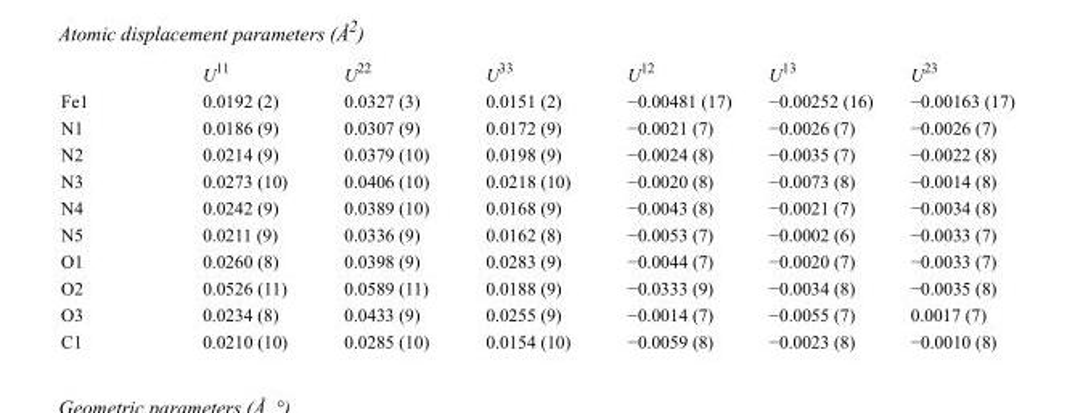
<table><thead><tr><td></td><td>U<sup>11</sup></td><td>U<sup>22</sup></td><td>U<sup>33</sup></td><td>U<sup>12</sup></td><td>U<sup>13</sup></td><td>U<sup>23</sup></td></tr></thead><tbody><tr><td>Fe1</td><td>0.0192 (2)</td><td>0.0327 (3)</td><td>0.0151 (2)</td><td>−0.00481 (17)</td><td>−0.00252 (16)</td><td>−0.00163 (17)</td></tr><tr><td>N1</td><td>0.0186 (9)</td><td>0.0307 (9)</td><td>0.0172 (9)</td><td>−0.0021 (7)</td><td>−0.0026 (7)</td><td>−0.0026 (7)</td></tr><tr><td>N2</td><td>0.0214 (9)</td><td>0.0379 (10)</td><td>0.0198 (9)</td><td>−0.0024 (8)</td><td>−0.0035 (7)</td><td>−0.0022 (8)</td></tr><tr><td>N3</td><td>0.0273 (10)</td><td>0.0406 (10)</td><td>0.0218 (10)</td><td>−0.0020 (8)</td><td>−0.0073 (8)</td><td>−0.0014 (8)</td></tr><tr><td>N4</td><td>0.0242 (9)</td><td>0.0389 (10)</td><td>0.0168 (9)</td><td>−0.0043 (8)</td><td>−0.0021 (7)</td><td>−0.0034 (8)</td></tr><tr><td>N5</td><td>0.0211 (9)</td><td>0.0336 (9)</td><td>0.0162 (8)</td><td>−0.0053 (7)</td><td>−0.0002 (6)</td><td>−0.0033 (7)</td></tr><tr><td>O1</td><td>0.0260 (8)</td><td>0.0398 (9)</td><td>0.0283 (9)</td><td>−0.0044 (7)</td><td>−0.0020 (7)</td><td>−0.0033 (7)</td></tr><tr><td>O2</td><td>0.0526 (11)</td><td>0.0589 (11)</td><td>0.0188 (9)</td><td>−0.0333 (9)</td><td>−0.0034 (8)</td><td>−0.0035 (8)</td></tr><tr><td>O3</td><td>0.0234 (8)</td><td>0.0433 (9)</td><td>0.0255 (9)</td><td>−0.0014 (7)</td><td>−0.0055 (7)</td><td>0.0017 (7)</td></tr><tr><td>C1</td><td>0.0210 (10)</td><td>0.0285 (10)</td><td>0.0154 (10)</td><td>−0.0059 (8)</td><td>−0.0023 (8)</td><td>−0.0010 (8)</td></tr></tbody></table>